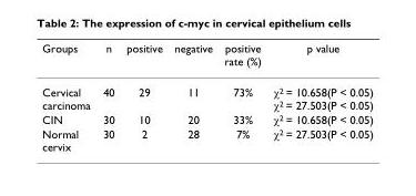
<table><thead><tr><td>Groups</td><td>n</td><td>positive</td><td>negative</td><td>positive rate (%)</td><td>p value</td></tr></thead><tbody><tr><td>Cervical carcinoma</td><td>40</td><td>29</td><td>11</td><td>73%</td><td>χ<sup>2</sup> = 10.658(P &lt; 0.05) χ<sup>2</sup> = 27.503(P &lt; 0.05)</td></tr><tr><td>CIN</td><td>30</td><td>10</td><td>20</td><td>33%</td><td>χ<sup>2</sup> = 10.658(P &lt; 0.05)</td></tr><tr><td>Normal cervix</td><td>30</td><td>2</td><td>28</td><td>7%</td><td>χ<sup>2</sup> = 27.503(P &lt; 0.05)</td></tr></tbody></table>